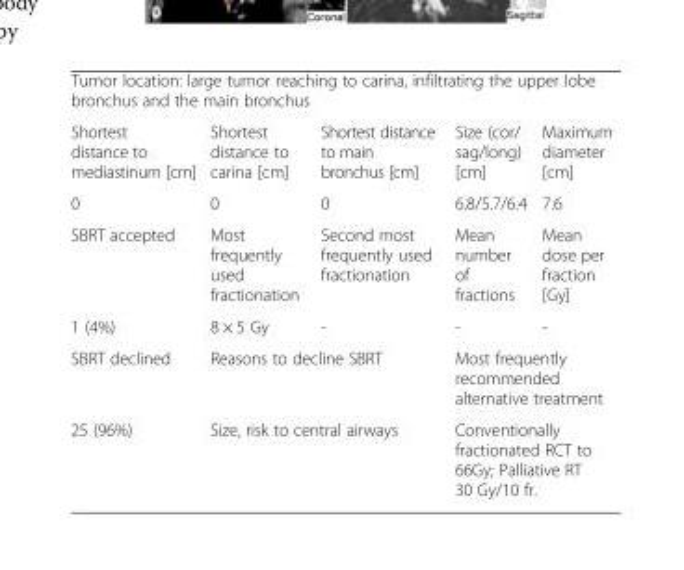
<table><tbody><tr><td colspan="5">Tumor location: large tumor reaching to carina, infiltrating the upper lobe bronchus and the main bronchus</td></tr><tr><td>Shortest distance to mediastinum [cm]</td><td>Shortest distance to carina [cm]</td><td>Shortest distance to main bronchus [cm]</td><td>Size (cor/ sag/long) [cm]</td><td>Maximum diameter [cm]</td></tr><tr><td>0</td><td>0</td><td>0</td><td>6.8/5.7/6.4</td><td>7.6</td></tr><tr><td>SBRT accepted</td><td>Most frequently used fractionation</td><td>Second most frequently used fractionation</td><td>Mean number of fractions</td><td>Mean dose per fraction [Gy]</td></tr><tr><td>1 (4%)</td><td>8 × 5 Gy</td><td>-</td><td>-</td><td>-</td></tr><tr><td>SBRT declined</td><td colspan="2">Reasons to decline SBRT</td><td colspan="2">Most frequently recommended alternative treatment</td></tr><tr><td>25 (96%)</td><td colspan="2">Size, risk to central airways</td><td colspan="2">Conventionally fractionated RCT to 66Gy; Palliative RT 30 Gy/10 fr.</td></tr></tbody></table>